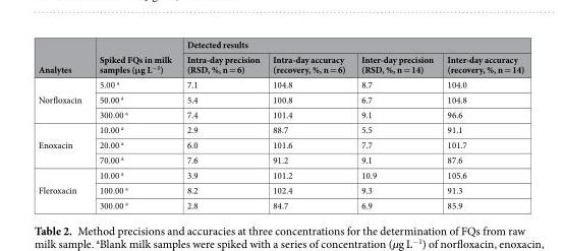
<table><thead><tr><td rowspan="2">Analytes</td><td rowspan="2">Spiked FQs in milk samples (μg L<sup>−1</sup>)</td><td colspan="4">Detected results</td></tr><tr><td>Intra-day precision (RSD, %, n = 6)</td><td>Intra-day accuracy (recovery, %, n = 6)</td><td>Inter-day precision (RSD, %, n = 14)</td><td>Inter-day accuracy (recovery, %, n = 14)</td></tr></thead><tbody><tr><td rowspan="3">Norfloxacin</td><td>5.00 <sup>a</sup></td><td>7.1</td><td>104.8</td><td>8.7</td><td>104.0</td></tr><tr><td>50.00 <sup>a</sup></td><td>5.4</td><td>100.8</td><td>6.7</td><td>104.8</td></tr><tr><td>300.00 <sup>a</sup></td><td>7.4</td><td>101.4</td><td>9.1</td><td>96.6</td></tr><tr><td rowspan="3">Enoxacin</td><td>10.00 <sup>a</sup></td><td>2.9</td><td>88.7</td><td>5.5</td><td>91.1</td></tr><tr><td>20.00 <sup>a</sup></td><td>6.0</td><td>101.6</td><td>7.7</td><td>101.7</td></tr><tr><td>70.00 <sup>a</sup></td><td>7.6</td><td>91.2</td><td>9.1</td><td>87.6</td></tr><tr><td rowspan="3">Fleroxacin</td><td>10.00 <sup>a</sup></td><td>3.9</td><td>101.2</td><td>10.9</td><td>105.6</td></tr><tr><td>100.00 <sup>a</sup></td><td>8.2</td><td>102.4</td><td>9.3</td><td>91.3</td></tr><tr><td>300.00 <sup>a</sup></td><td>2.8</td><td>84.7</td><td>6.9</td><td>85.9</td></tr></tbody></table>